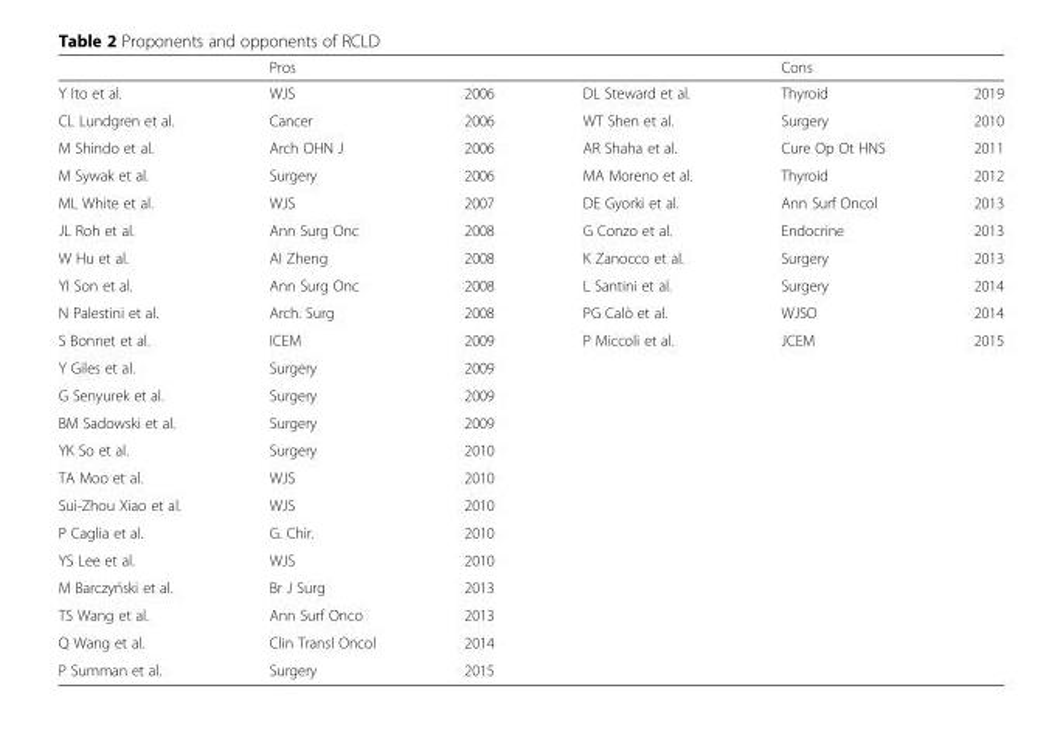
<table><thead><tr><td></td><td>Pros</td><td></td><td></td><td>Cons</td><td></td></tr></thead><tbody><tr><td>Y Ito et al.</td><td>WJS</td><td>2006</td><td>DL Steward et al.</td><td>Thyroid</td><td>2019</td></tr><tr><td>CL Lundgren et al.</td><td>Cancer</td><td>2006</td><td>WT Shen et al.</td><td>Surgery</td><td>2010</td></tr><tr><td>M Shindo et al.</td><td>Arch OHN J</td><td>2006</td><td>AR Shaha et al.</td><td>Cure Op Ot HNS</td><td>2011</td></tr><tr><td>M Sywak et al.</td><td>Surgery</td><td>2006</td><td>MA Moreno et al.</td><td>Thyroid</td><td>2012</td></tr><tr><td>ML White et al.</td><td>WJS</td><td>2007</td><td>DE Gyorki et al.</td><td>Ann Surf Oncol</td><td>2013</td></tr><tr><td>JL Roh et al.</td><td>Ann Surg Onc</td><td>2008</td><td>G Conzo et al.</td><td>Endocrine</td><td>2013</td></tr><tr><td>W Hu et al.</td><td>AI Zheng</td><td>2008</td><td>K Zanocco et al.</td><td>Surgery</td><td>2013</td></tr><tr><td>YI Son et al.</td><td>Ann Surg Onc</td><td>2008</td><td>L Santini et al.</td><td>Surgery</td><td>2014</td></tr><tr><td>N Palestini et al.</td><td>Arch. Surg</td><td>2008</td><td>PG Calò et al.</td><td>WJSO</td><td>2014</td></tr><tr><td>S Bonnet et al.</td><td>ICEM</td><td>2009</td><td>P Miccoli et al.</td><td>JCEM</td><td>2015</td></tr><tr><td>Y Giles et al.</td><td>Surgery</td><td>2009</td><td></td><td></td><td></td></tr><tr><td>G Senyurek et al.</td><td>Surgery</td><td>2009</td><td></td><td></td><td></td></tr><tr><td>BM Sadowski et al.</td><td>Surgery</td><td>2009</td><td></td><td></td><td></td></tr><tr><td>YK So et al.</td><td>Surgery</td><td>2010</td><td></td><td></td><td></td></tr><tr><td>TA Moo et al.</td><td>WJS</td><td>2010</td><td></td><td></td><td></td></tr><tr><td>Sui-Zhou Xiao et al.</td><td>WJS</td><td>2010</td><td></td><td></td><td></td></tr><tr><td>P Caglia et al.</td><td>G. Chir.</td><td>2010</td><td></td><td></td><td></td></tr><tr><td>YS Lee et al.</td><td>WJS</td><td>2010</td><td></td><td></td><td></td></tr><tr><td>M Barczyński et al.</td><td>Br J Surg</td><td>2013</td><td></td><td></td><td></td></tr><tr><td>TS Wang et al.</td><td>Ann Surf Onco</td><td>2013</td><td></td><td></td><td></td></tr><tr><td>Q Wang et al.</td><td>Clin Transl Oncol</td><td>2014</td><td></td><td></td><td></td></tr><tr><td>P Summan et al.</td><td>Surgery</td><td>2015</td><td></td><td></td><td></td></tr></tbody></table>